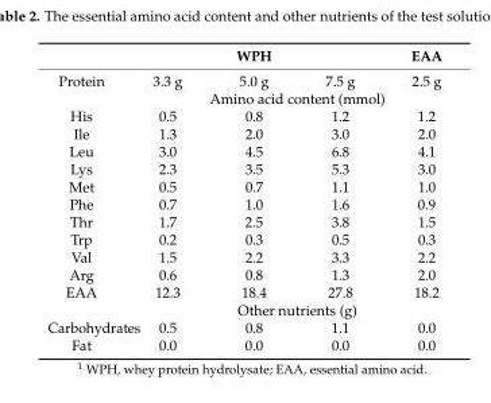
<table><thead><tr><td rowspan="2">Protein</td><td colspan="3">WPH</td><td rowspan="2">EAA 2.5 g</td></tr><tr><td>3.3 g</td><td>5.0 g</td><td>7.5 g</td></tr></thead><tbody><tr><td></td><td colspan="4">Amino acid content (mmol)</td></tr><tr><td>His</td><td>0.5</td><td>0.8</td><td>1.2</td><td>1.2</td></tr><tr><td>Ile</td><td>1.3</td><td>2.0</td><td>3.0</td><td>2.0</td></tr><tr><td>Leu</td><td>3.0</td><td>4.5</td><td>6.8</td><td>4.1</td></tr><tr><td>Lys</td><td>2.3</td><td>3.5</td><td>5.3</td><td>3.0</td></tr><tr><td>Met</td><td>0.5</td><td>0.7</td><td>1.1</td><td>1.0</td></tr><tr><td>Phe</td><td>0.7</td><td>1.0</td><td>1.6</td><td>0.9</td></tr><tr><td>Thr</td><td>1.7</td><td>2.5</td><td>3.8</td><td>1.5</td></tr><tr><td>Trp</td><td>0.2</td><td>0.3</td><td>0.5</td><td>0.3</td></tr><tr><td>Val</td><td>1.5</td><td>2.2</td><td>3.3</td><td>2.2</td></tr><tr><td>Arg</td><td>0.6</td><td>0.8</td><td>1.3</td><td>2.0</td></tr><tr><td rowspan="2">EAA</td><td>12.3</td><td>18.4</td><td>27.8</td><td>18.2</td></tr><tr><td colspan="4">Other nutrients (g)</td></tr><tr><td>Carbohydrates</td><td>0.5</td><td>0.8</td><td>1.1</td><td>0.0</td></tr><tr><td>Fat</td><td>0.0</td><td>0.0</td><td>0.0</td><td>0.0</td></tr></tbody></table>